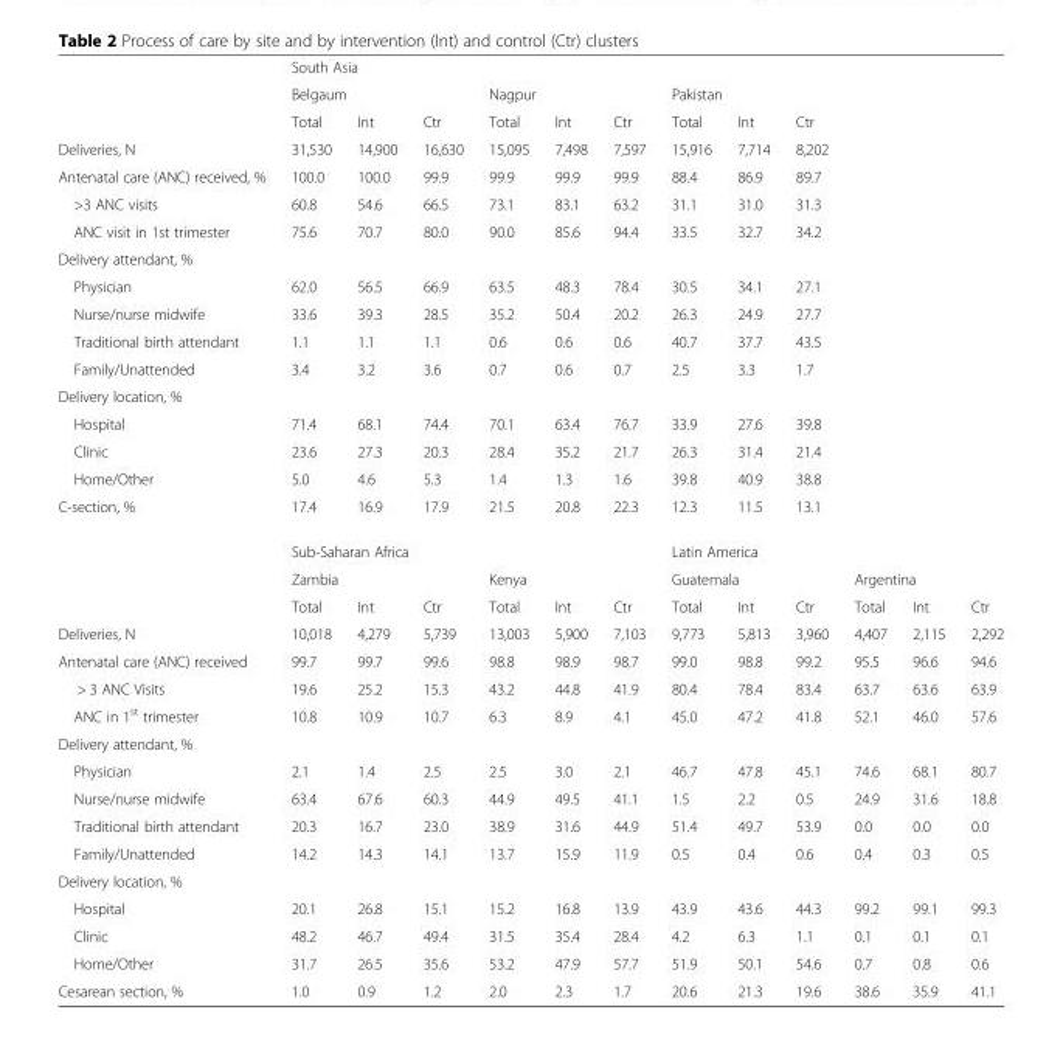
<table><thead><tr><td rowspan="3"></td><td colspan="12">South Asia</td></tr><tr><td colspan="3">Belgaum</td><td colspan="3">Nagpur</td><td colspan="3">Pakistan</td><td colspan="3"></td></tr><tr><td>Total</td><td>Int</td><td>Ctr</td><td>Total</td><td>Int</td><td>Ctr</td><td>Total</td><td>Int</td><td>Ctr</td><td></td><td></td><td></td></tr></thead><tbody><tr><td>Deliveries, N</td><td>31,530</td><td>14,900</td><td>16,630</td><td>15,095</td><td>7,498</td><td>7,597</td><td>15,916</td><td>7,714</td><td>8,202</td><td></td><td></td><td></td></tr><tr><td>Antenatal care (ANC) received, %</td><td>100.0</td><td>100.0</td><td>99.9</td><td>99.9</td><td>99.9</td><td>99.9</td><td>88.4</td><td>86.9</td><td>89.7</td><td></td><td></td><td></td></tr><tr><td>&gt;3 ANC visits</td><td>60.8</td><td>54.6</td><td>66.5</td><td>73.1</td><td>83.1</td><td>63.2</td><td>31.1</td><td>31.0</td><td>31.3</td><td></td><td></td><td></td></tr><tr><td>ANC visit in 1st trimester</td><td>75.6</td><td>70.7</td><td>80.0</td><td>90.0</td><td>85.6</td><td>94.4</td><td>33.5</td><td>32.7</td><td>34.2</td><td></td><td></td><td></td></tr><tr><td colspan="13">Delivery attendant, %</td></tr><tr><td>Physician</td><td>62.0</td><td>56.5</td><td>66.9</td><td>63.5</td><td>48.3</td><td>78.4</td><td>30.5</td><td>34.1</td><td>27.1</td><td></td><td></td><td></td></tr><tr><td>Nurse/nurse midwife</td><td>33.6</td><td>39.3</td><td>28.5</td><td>35.2</td><td>50.4</td><td>20.2</td><td>26.3</td><td>24.9</td><td>27.7</td><td></td><td></td><td></td></tr><tr><td>Traditional birth attendant</td><td>1.1</td><td>1.1</td><td>1.1</td><td>0.6</td><td>0.6</td><td>0.6</td><td>40.7</td><td>37.7</td><td>43.5</td><td></td><td></td><td></td></tr><tr><td>Family/Unattended</td><td>3.4</td><td>3.2</td><td>3.6</td><td>0.7</td><td>0.6</td><td>0.7</td><td>2.5</td><td>3.3</td><td>1.7</td><td></td><td></td><td></td></tr><tr><td colspan="13">Delivery location, %</td></tr><tr><td>Hospital</td><td>71.4</td><td>68.1</td><td>74.4</td><td>70.1</td><td>63.4</td><td>76.7</td><td>33.9</td><td>27.6</td><td>39.8</td><td></td><td></td><td></td></tr><tr><td>Clinic</td><td>23.6</td><td>27.3</td><td>20.3</td><td>28.4</td><td>35.2</td><td>21.7</td><td>26.3</td><td>31.4</td><td>21.4</td><td></td><td></td><td></td></tr><tr><td>Home/Other</td><td>5.0</td><td>4.6</td><td>5.3</td><td>1.4</td><td>1.3</td><td>1.6</td><td>39.8</td><td>40.9</td><td>38.8</td><td></td><td></td><td></td></tr><tr><td rowspan="4">C-section, %</td><td>17.4</td><td>16.9</td><td>17.9</td><td>21.5</td><td>20.8</td><td>22.3</td><td>12.3</td><td>11.5</td><td>13.1</td><td></td><td></td><td></td></tr><tr><td colspan="6">Sub-Saharan Africa</td><td colspan="6">Latin America</td></tr><tr><td colspan="3">Zambia</td><td colspan="3">Kenya</td><td colspan="3">Guatemala</td><td colspan="3">Argentina</td></tr><tr><td>Total</td><td>Int</td><td>Ctr</td><td>Total</td><td>Int</td><td>Ctr</td><td>Total</td><td>Int</td><td>Ctr</td><td>Total</td><td>Int</td><td>Ctr</td></tr><tr><td>Deliveries, N</td><td>10,018</td><td>4,279</td><td>5,739</td><td>13,003</td><td>5,900</td><td>7,103</td><td>9,773</td><td>5,813</td><td>3,960</td><td>4,407</td><td>2,115</td><td>2,292</td></tr><tr><td>Antenatal care (ANC) received</td><td>99.7</td><td>99.7</td><td>99.6</td><td>98.8</td><td>98.9</td><td>98.7</td><td>99.0</td><td>98.8</td><td>99.2</td><td>95.5</td><td>96.6</td><td>94.6</td></tr><tr><td>&gt; 3 ANC Visits</td><td>19.6</td><td>25.2</td><td>15.3</td><td>43.2</td><td>44.8</td><td>41.9</td><td>80.4</td><td>78.4</td><td>83.4</td><td>63.7</td><td>63.6</td><td>63.9</td></tr><tr><td>ANC in 1<sup>st</sup> trimester</td><td>10.8</td><td>10.9</td><td>10.7</td><td>6.3</td><td>8.9</td><td>4.1</td><td>45.0</td><td>47.2</td><td>41.8</td><td>52.1</td><td>46.0</td><td>57.6</td></tr><tr><td colspan="13">Delivery attendant, %</td></tr><tr><td>Physician</td><td>2.1</td><td>1.4</td><td>2.5</td><td>2.5</td><td>3.0</td><td>2.1</td><td>46.7</td><td>47.8</td><td>45.1</td><td>74.6</td><td>68.1</td><td>80.7</td></tr><tr><td>Nurse/nurse midwife</td><td>63.4</td><td>67.6</td><td>60.3</td><td>44.9</td><td>49.5</td><td>41.1</td><td>1.5</td><td>2.2</td><td>0.5</td><td>24.9</td><td>31.6</td><td>18.8</td></tr><tr><td>Traditional birth attendant</td><td>20.3</td><td>16.7</td><td>23.0</td><td>38.9</td><td>31.6</td><td>44.9</td><td>51.4</td><td>49.7</td><td>53.9</td><td>0.0</td><td>0.0</td><td>0.0</td></tr><tr><td>Family/Unattended</td><td>14.2</td><td>14.3</td><td>14.1</td><td>13.7</td><td>15.9</td><td>11.9</td><td>0.5</td><td>0.4</td><td>0.6</td><td>0.4</td><td>0.3</td><td>0.5</td></tr><tr><td colspan="13">Delivery location, %</td></tr><tr><td>Hospital</td><td>20.1</td><td>26.8</td><td>15.1</td><td>15.2</td><td>16.8</td><td>13.9</td><td>43.9</td><td>43.6</td><td>44.3</td><td>99.2</td><td>99.1</td><td>99.3</td></tr><tr><td>Clinic</td><td>48.2</td><td>46.7</td><td>49.4</td><td>31.5</td><td>35.4</td><td>28.4</td><td>4.2</td><td>6.3</td><td>1.1</td><td>0.1</td><td>0.1</td><td>0.1</td></tr><tr><td>Home/Other</td><td>31.7</td><td>26.5</td><td>35.6</td><td>53.2</td><td>47.9</td><td>57.7</td><td>51.9</td><td>50.1</td><td>54.6</td><td>0.7</td><td>0.8</td><td>0.6</td></tr><tr><td>Cesarean section, %</td><td>1.0</td><td>0.9</td><td>1.2</td><td>2.0</td><td>2.3</td><td>1.7</td><td>20.6</td><td>21.3</td><td>19.6</td><td>38.6</td><td>35.9</td><td>41.1</td></tr></tbody></table>